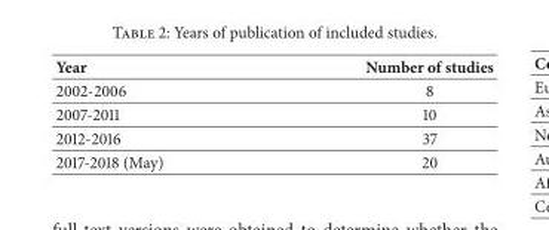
<table><thead><tr><td>Year</td><td>Number of studies</td></tr></thead><tbody><tr><td>2002-2006</td><td>8</td></tr><tr><td>2007-2011</td><td>10</td></tr><tr><td>2012-2016</td><td>37</td></tr><tr><td>2017-2018 (May)</td><td>20</td></tr></tbody></table>